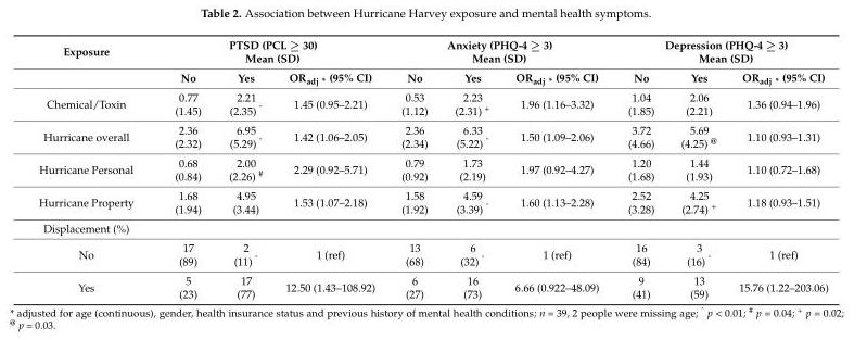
<table><thead><tr><td rowspan="2">Exposure</td><td colspan="3">PTSD (PCL ≥ 30) Mean (SD)</td><td colspan="3">Anxiety (PHQ-4 ≥ 3) Mean (SD)</td><td colspan="3">Depression (PHQ-4 ≥ 3) Mean (SD)</td></tr><tr><td>No</td><td>Yes</td><td>OR<sub>adj *</sub> (95% CI)</td><td>No</td><td>Yes</td><td>OR<sub>adj *</sub> (95% CI)</td><td>No</td><td>Yes</td><td>OR<sub>adj *</sub> (95% CI)</td></tr></thead><tbody><tr><td>Chemical/Toxin</td><td>0.77 (1.45)</td><td>2.21 (2.35) ˆ</td><td>1.45 (0.95–2.21)</td><td>0.53 (1.12)</td><td>2.23 (2.31) <sup>+</sup></td><td>1.96 (1.16–3.32)</td><td>1.04 (1.85)</td><td>2.06 (2.21)</td><td>1.36 (0.94–1.96)</td></tr><tr><td>Hurricane overall</td><td>2.36 (2.32)</td><td>6.95 (5.29) ˆ</td><td>1.42 (1.06–2.05)</td><td>2.36 (2.34)</td><td>6.33 (5.22) ˆ</td><td>1.50 (1.09–2.06)</td><td>3.72 (4.66)</td><td>5.69 (4.25) <sup>@</sup></td><td>1.10 (0.93–1.31)</td></tr><tr><td>Hurricane Personal</td><td>0.68 (0.84)</td><td>2.00 (2.26) <sup>#</sup></td><td>2.29 (0.92–5.71)</td><td>0.79 (0.92)</td><td>1.73 (2.19)</td><td>1.97 (0.92–4.27)</td><td>1.20 (1.68)</td><td>1.44 (1.93)</td><td>1.10 (0.72–1.68)</td></tr><tr><td>Hurricane Property</td><td>1.68 (1.94)</td><td>4.95 (3.44)</td><td>1.53 (1.07–2.18)</td><td>1.58 (1.92)</td><td>4.59 (3.39) ˆ</td><td>1.60 (1.13–2.28)</td><td>2.52 (3.28)</td><td>4.25 (2.74) <sup>+</sup></td><td>1.18 (0.93–1.51)</td></tr><tr><td colspan="10">Displacement (%)</td></tr><tr><td>No</td><td>17 (89)</td><td>2 (11) ˆ</td><td>1 (ref)</td><td>13 (68)</td><td>6 (32) ˆ</td><td>1 (ref)</td><td>16 (84)</td><td>3 (16) ˆ</td><td>1 (ref)</td></tr><tr><td>Yes</td><td>5 (23)</td><td>17 (77)</td><td>12.50 (1.43–108.92)</td><td>6 (27)</td><td>16 (73)</td><td>6.66 (0.922–48.09)</td><td>9 (41)</td><td>13 (59)</td><td>15.76 (1.22–203.06)</td></tr></tbody></table>